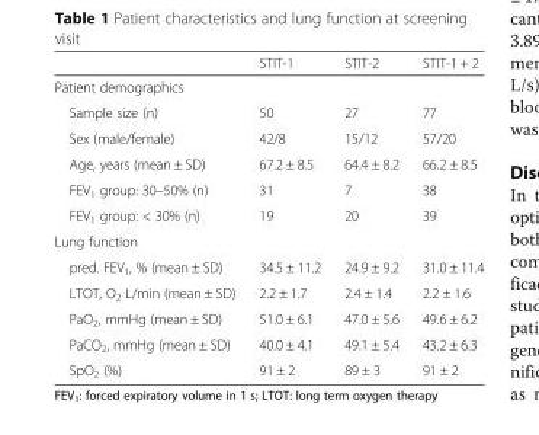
<table><thead><tr><td></td><td>STIT-1</td><td>STIT-2</td><td>STIT-1 + 2</td></tr></thead><tbody><tr><td colspan="4">Patient demographics</td></tr><tr><td>Sample size (n)</td><td>50</td><td>27</td><td>77</td></tr><tr><td>Sex (male/female)</td><td>42/8</td><td>15/12</td><td>57/20</td></tr><tr><td>Age, years (mean ± SD)</td><td>67.2 ± 8.5</td><td>64.4 ± 8.2</td><td>66.2 ± 8.5</td></tr><tr><td>FEV<sub>1</sub> group: 30–50% (n)</td><td>31</td><td>7</td><td>38</td></tr><tr><td>FEV<sub>1</sub> group: &lt; 30% (n)</td><td>19</td><td>20</td><td>39</td></tr><tr><td colspan="4">Lung function</td></tr><tr><td>pred. FEV<sub>1</sub>, % (mean ± SD)</td><td>34.5 ± 11.2</td><td>24.9 ± 9.2</td><td>31.0 ± 11.4</td></tr><tr><td>LTOT, O<sub>2</sub> L/min (mean ± SD)</td><td>2.2 ± 1.7</td><td>2.4 ± 1.4</td><td>2.2 ± 1.6</td></tr><tr><td>PaO<sub>2</sub>, mmHg (mean ± SD)</td><td>51.0 ± 6.1</td><td>47.0 ± 5.6</td><td>49.6 ± 6.2</td></tr><tr><td>PaCO<sub>2</sub>, mmHg (mean ± SD)</td><td>40.0 ± 4.1</td><td>49.1 ± 5.4</td><td>43.2 ± 6.3</td></tr><tr><td>SpO<sub>2</sub> (%)</td><td>91 ± 2</td><td>89 ± 3</td><td>91 ± 2</td></tr></tbody></table>